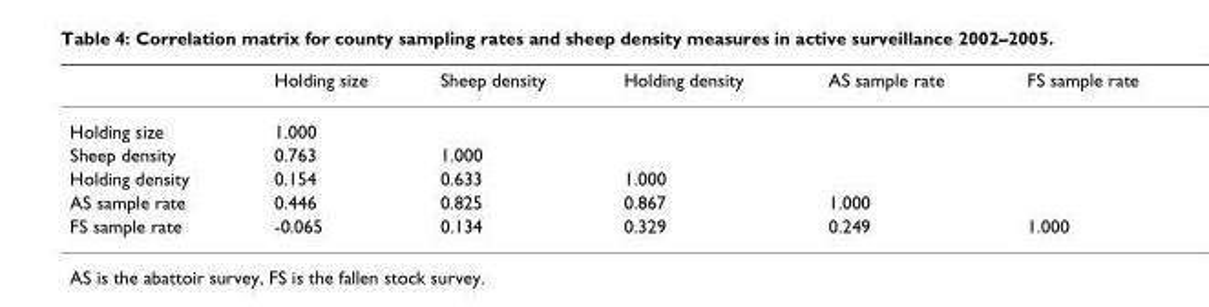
<table><thead><tr><td></td><td>Holding size</td><td>Sheep density</td><td>Holding density</td><td>AS sample rate</td><td>FS sample rate</td></tr></thead><tbody><tr><td>Holding size</td><td>1.000</td><td></td><td></td><td></td><td></td></tr><tr><td>Sheep density</td><td>0.763</td><td>1.000</td><td></td><td></td><td></td></tr><tr><td>Holding density</td><td>0.154</td><td>0.633</td><td>1.000</td><td></td><td></td></tr><tr><td>AS sample rate</td><td>0.446</td><td>0.825</td><td>0.867</td><td>1.000</td><td></td></tr><tr><td>FS sample rate</td><td>-0.065</td><td>0.134</td><td>0.329</td><td>0.249</td><td>1.000</td></tr></tbody></table>